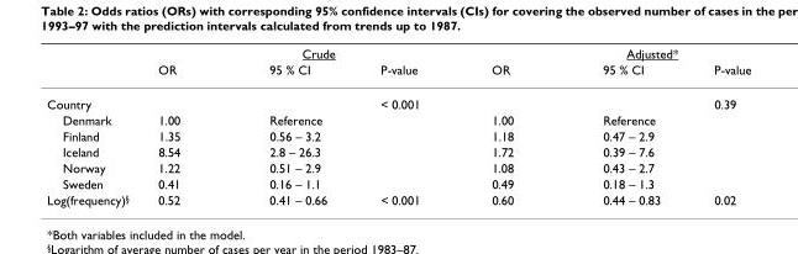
<table><thead><tr><td rowspan="2"></td><td colspan="3">Crude</td><td colspan="3">Adjusted*</td></tr><tr><td>OR</td><td>95 % CI</td><td>P-value</td><td>OR</td><td>95 % CI</td><td>P-value</td></tr></thead><tbody><tr><td>Country</td><td></td><td></td><td>&lt; 0.001</td><td></td><td></td><td>0.39</td></tr><tr><td>Denmark</td><td>1.00</td><td>Reference</td><td></td><td>1.00</td><td>Reference</td><td></td></tr><tr><td>Finland</td><td>1.35</td><td>0.56 – 3.2</td><td></td><td>1.18</td><td>0.47 – 2.9</td><td></td></tr><tr><td>Iceland</td><td>8.54</td><td>2.8 – 26.3</td><td></td><td>1.72</td><td>0.39 – 7.6</td><td></td></tr><tr><td>Norway</td><td>1.22</td><td>0.51 – 2.9</td><td></td><td>1.08</td><td>0.43 – 2.7</td><td></td></tr><tr><td>Sweden</td><td>0.41</td><td>0.16 – 1.1</td><td></td><td>0.49</td><td>0.18 – 1.3</td><td></td></tr><tr><td>Log(frequency)<sup>§</sup></td><td>0.52</td><td>0.41 – 0.66</td><td>&lt; 0.001</td><td>0.60</td><td>0.44 – 0.83</td><td>0.02</td></tr></tbody></table>